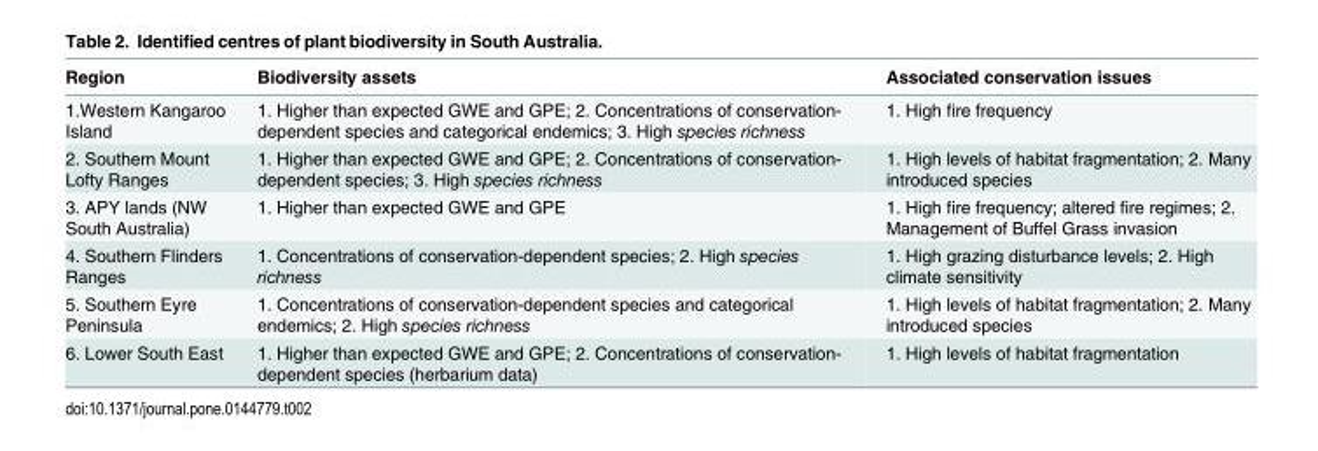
<table><thead><tr><td>Region</td><td>Biodiversity assets</td><td>Associated conservation issues</td></tr></thead><tbody><tr><td>1.Western Kangaroo Island</td><td>1. Higher than expected GWE and GPE; 2. Concentrations of conservation- dependent species and categorical endemics; 3. High species richness</td><td>1. High fire frequency</td></tr><tr><td>2. Southern Mount Lofty Ranges</td><td>1. Higher than expected GWE and GPE; 2. Concentrations of conservation- dependent species; 3. High species richness</td><td>1. High levels of habitat fragmentation; 2. Many introduced species</td></tr><tr><td>3. APY lands (NW South Australia)</td><td>1. Higher than expected GWE and GPE</td><td>1. High fire frequency; altered fire regimes; 2. Management of Buffel Grass invasion</td></tr><tr><td>4. Southern Flinders Ranges</td><td>1. Concentrations of conservation-dependent species; 2. High species richness</td><td>1. High grazing disturbance levels; 2. High climate sensitivity</td></tr><tr><td>5. Southern Eyre Peninsula</td><td>1. Concentrations of conservation-dependent species and categorical endemics; 2. High species richness</td><td>1. High levels of habitat fragmentation; 2. Many introduced species</td></tr><tr><td>6. Lower South East</td><td>1. Higher than expected GWE and GPE; 2. Concentrations of conservation- dependent species (herbarium data)</td><td>1. High levels of habitat fragmentation</td></tr></tbody></table>